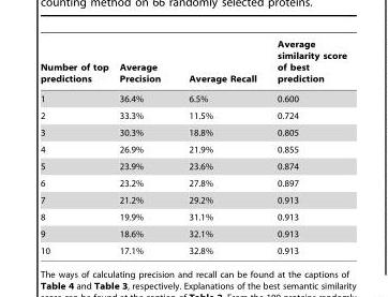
<table><thead><tr><td>Number of top predictions</td><td>Average Precision</td><td>Average Recall</td><td>Average similarity score of best prediction</td></tr></thead><tbody><tr><td>1</td><td>36.4%</td><td>6.5%</td><td>0.600</td></tr><tr><td>2</td><td>33.3%</td><td>11.5%</td><td>0.724</td></tr><tr><td>3</td><td>30.3%</td><td>18.8%</td><td>0.805</td></tr><tr><td>4</td><td>26.9%</td><td>21.9%</td><td>0.855</td></tr><tr><td>5</td><td>23.9%</td><td>23.6%</td><td>0.874</td></tr><tr><td>6</td><td>23.2%</td><td>27.8%</td><td>0.897</td></tr><tr><td>7</td><td>21.2%</td><td>29.2%</td><td>0.913</td></tr><tr><td>8</td><td>19.9%</td><td>31.1%</td><td>0.913</td></tr><tr><td>9</td><td>18.6%</td><td>32.1%</td><td>0.913</td></tr><tr><td>10</td><td>17.1%</td><td>32.8%</td><td>0.913</td></tr></tbody></table>